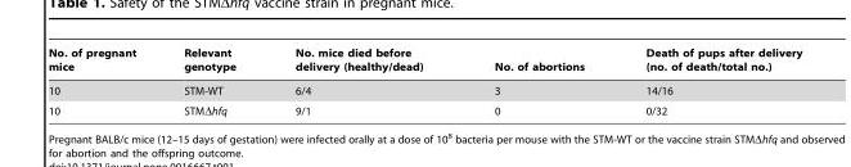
<table><thead><tr><td>No. of pregnant mice</td><td>Relevant genotype</td><td>No. mice died before delivery (healthy/dead)</td><td>No. of abortions</td><td>Death of pups after delivery (no. of death/total no.)</td></tr></thead><tbody><tr><td>10</td><td>STM-WT</td><td>6/4</td><td>3</td><td>14/16</td></tr><tr><td>10</td><td>STMΔhfq</td><td>9/1</td><td>0</td><td>0/32</td></tr></tbody></table>